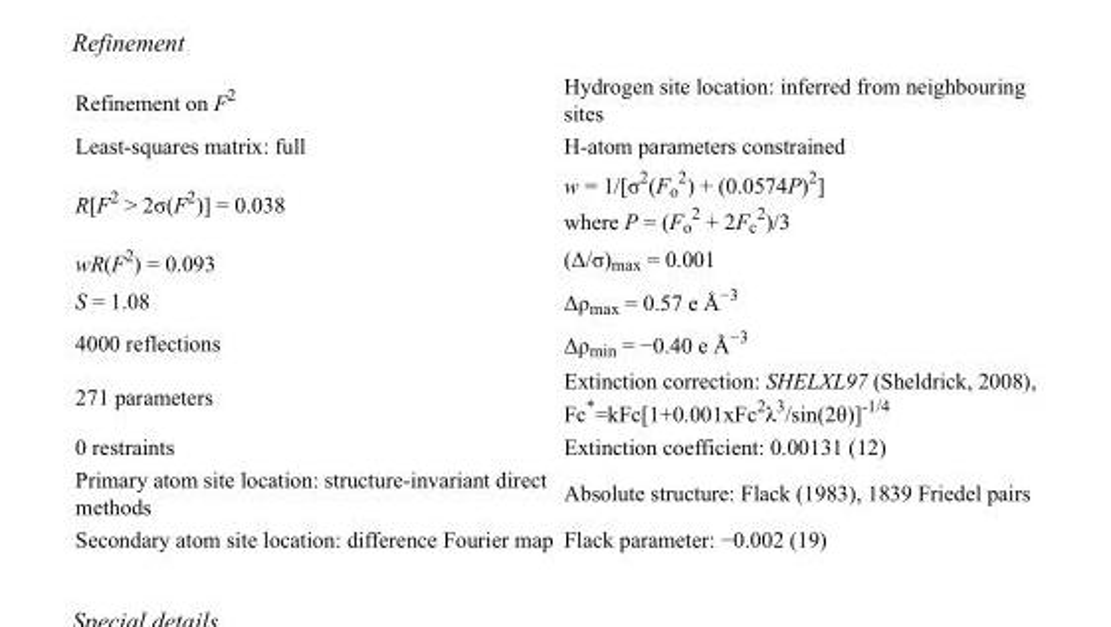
<table><tbody><tr><td>Refinement on F<sup>2</sup></td><td>Hydrogen site location: inferred from neighbouring sites</td></tr><tr><td>Least-squares matrix: full</td><td>H-atom parameters constrained</td></tr><tr><td>R[F<sup>2</sup> &gt; 2σ(F<sup>2</sup>)] = 0.038</td><td>w = 1/[σ<sup>2</sup>(F<sub>o</sub> <sup>2</sup>) + (0.0574P)<sup>2</sup>] where P = (F<sub>o</sub> <sup>2</sup> + 2F<sub>c</sub> <sup>2</sup>)/3</td></tr><tr><td>wR(F<sup>2</sup>) = 0.093</td><td>(Δ/σ)<sub>max</sub> = 0.001</td></tr><tr><td>S = 1.08</td><td>Δρ<sub>max</sub> = 0.57 e Å<sup>−3</sup></td></tr><tr><td>4000 reflections</td><td>Δρ<sub>min</sub> = −0.40 e Å<sup>−3</sup></td></tr><tr><td>271 parameters</td><td>Extinction correction: SHELXL97 (Sheldrick, 2008), Fc*=kFc[1+0.001xFc<sup>2</sup>λ<sup>3</sup>/sin(2θ)]<sup>-1/4</sup></td></tr><tr><td>0 restraints</td><td>Extinction coefficient: 0.00131 (12)</td></tr><tr><td>Primary atom site location: structure-invariant direct methods</td><td>Absolute structure: Flack (1983), 1839 Friedel pairs</td></tr><tr><td>Secondary atom site location: difference Fourier map</td><td>Flack parameter: −0.002 (19)</td></tr></tbody></table>